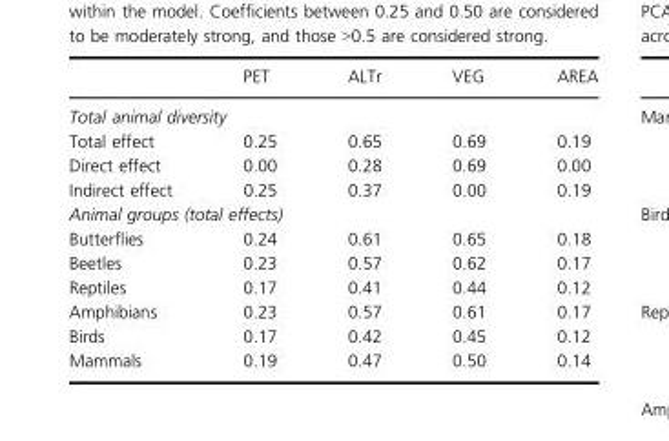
<table><thead><tr><td></td><td>PET</td><td>ALTr</td><td>VEG</td><td>AREA</td></tr></thead><tbody><tr><td colspan="5">Total animal diversity</td></tr><tr><td>Total effect</td><td>0.25</td><td>0.65</td><td>0.69</td><td>0.19</td></tr><tr><td>Direct effect</td><td>0.00</td><td>0.28</td><td>0.69</td><td>0.00</td></tr><tr><td>Indirect effect</td><td>0.25</td><td>0.37</td><td>0.00</td><td>0.19</td></tr><tr><td colspan="5">Animal groups (total effects)</td></tr><tr><td>Butterflies</td><td>0.24</td><td>0.61</td><td>0.65</td><td>0.18</td></tr><tr><td>Beetles</td><td>0.23</td><td>0.57</td><td>0.62</td><td>0.17</td></tr><tr><td>Reptiles</td><td>0.17</td><td>0.41</td><td>0.44</td><td>0.12</td></tr><tr><td>Amphibians</td><td>0.23</td><td>0.57</td><td>0.61</td><td>0.17</td></tr><tr><td>Birds</td><td>0.17</td><td>0.42</td><td>0.45</td><td>0.12</td></tr><tr><td>Mammals</td><td>0.19</td><td>0.47</td><td>0.50</td><td>0.14</td></tr></tbody></table>